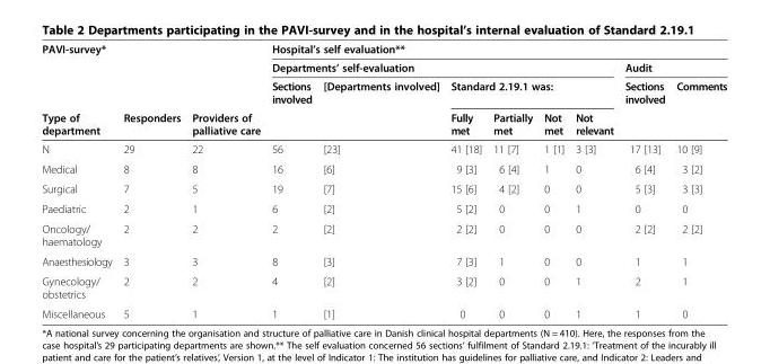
<table><thead><tr><td colspan="3">PAVI-survey*</td><td colspan="8">Hospital’s self evaluation**</td></tr><tr><td rowspan="3">Type of department</td><td rowspan="3">Responders</td><td rowspan="3">Providers of palliative care</td><td colspan="6">Departments’ self-evaluation</td><td colspan="2">Audit</td></tr><tr><td rowspan="2">Sections involved</td><td rowspan="2">[Departments involved]</td><td colspan="4">Standard 2.19.1 was:</td><td rowspan="2">Sections involved</td><td rowspan="2">Comments</td></tr><tr><td>Fully met</td><td>Partially met</td><td>Not met</td><td>Not relevant</td></tr></thead><tbody><tr><td>N</td><td>29</td><td>22</td><td>56</td><td>[23]</td><td>41 [18]</td><td>11 [7]</td><td>1 [1]</td><td>3 [3]</td><td>17 [13]</td><td>10 [9]</td></tr><tr><td>Medical</td><td>8</td><td>8</td><td>16</td><td>[6]</td><td>9 [3]</td><td>6 [4]</td><td>1</td><td>0</td><td>6 [4]</td><td>3 [2]</td></tr><tr><td>Surgical</td><td>7</td><td>5</td><td>19</td><td>[7]</td><td>15 [6]</td><td>4 [2]</td><td>0</td><td>0</td><td>5 [3]</td><td>3 [3]</td></tr><tr><td>Paediatric</td><td>2</td><td>1</td><td>6</td><td>[2]</td><td>5 [2]</td><td>0</td><td>0</td><td>1</td><td>0</td><td>0</td></tr><tr><td>Oncology/ haematology</td><td>2</td><td>2</td><td>2</td><td>[2]</td><td>2 [2]</td><td>0</td><td>0</td><td>0</td><td>2 [2]</td><td>2 [2]</td></tr><tr><td>Anaesthesiology</td><td>3</td><td>3</td><td>8</td><td>[3]</td><td>7 [3]</td><td>1</td><td>0</td><td>0</td><td>1</td><td>1</td></tr><tr><td>Gynecology/ obstetrics</td><td>2</td><td>2</td><td>4</td><td>[2]</td><td>3 [2]</td><td>0</td><td>0</td><td>1</td><td>2</td><td>1</td></tr><tr><td>Miscellaneous</td><td>5</td><td>1</td><td>1</td><td>[1]</td><td>0</td><td>0</td><td>0</td><td>1</td><td>1</td><td>0</td></tr></tbody></table>